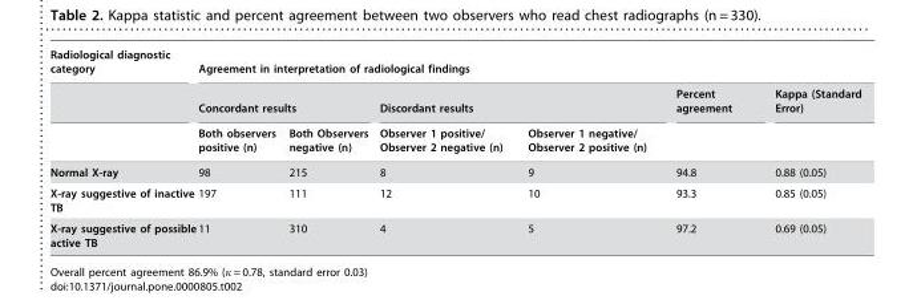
<table><thead><tr><td rowspan="3">Radiological diagnostic category</td><td colspan="6">Agreement in interpretation of radiological findings</td></tr><tr><td colspan="2">Concordant results</td><td colspan="2">Discordant results</td><td rowspan="2">Percent agreement</td><td rowspan="2">Kappa (Standard Error)</td></tr><tr><td>Both observers positive (n)</td><td>Both Observers negative (n)</td><td>Observer 1 positive/ Observer 2 negative (n)</td><td>Observer 1 negative/ Observer 2 positive (n)</td></tr></thead><tbody><tr><td>Normal X-ray</td><td>98</td><td>215</td><td>8</td><td>9</td><td>94.8</td><td>0.88 (0.05)</td></tr><tr><td>X-ray suggestive of inactive TB</td><td>197</td><td>111</td><td>12</td><td>10</td><td>93.3</td><td>0.85 (0.05)</td></tr><tr><td>X-ray suggestive of possible active TB</td><td>11</td><td>310</td><td>4</td><td>5</td><td>97.2</td><td>0.69 (0.05)</td></tr></tbody></table>